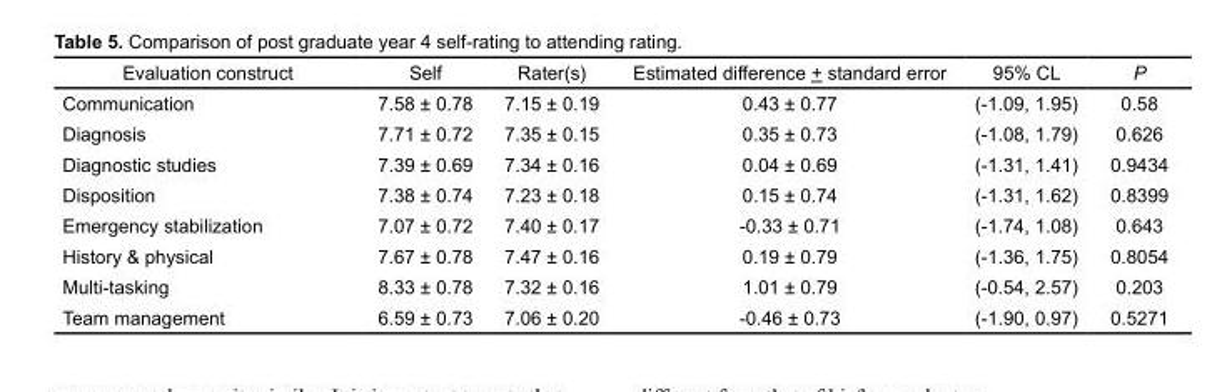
<table><thead><tr><td>Evaluation construct</td><td>Self</td><td>Rater(s)</td><td>Estimated difference + standard error</td><td>95% CL</td><td>P</td></tr></thead><tbody><tr><td>Communication</td><td>7.58 ± 0.78</td><td>7.15 ± 0.19</td><td>0.43 ± 0.77</td><td>(-1.09, 1.95)</td><td>0.58</td></tr><tr><td>Diagnosis</td><td>7.71 ± 0.72</td><td>7.35 ± 0.15</td><td>0.35 ± 0.73</td><td>(-1.08, 1.79)</td><td>0.626</td></tr><tr><td>Diagnostic studies</td><td>7.39 ± 0.69</td><td>7.34 ± 0.16</td><td>0.04 ± 0.69</td><td>(-1.31, 1.41)</td><td>0.9434</td></tr><tr><td>Disposition</td><td>7.38 ± 0.74</td><td>7.23 ± 0.18</td><td>0.15 ± 0.74</td><td>(-1.31, 1.62)</td><td>0.8399</td></tr><tr><td>Emergency stabilization</td><td>7.07 ± 0.72</td><td>7.40 ± 0.17</td><td>-0.33 ± 0.71</td><td>(-1.74, 1.08)</td><td>0.643</td></tr><tr><td>History &amp; physical</td><td>7.67 ± 0.78</td><td>7.47 ± 0.16</td><td>0.19 ± 0.79</td><td>(-1.36, 1.75)</td><td>0.8054</td></tr><tr><td>Multi-tasking</td><td>8.33 ± 0.78</td><td>7.32 ± 0.16</td><td>1.01 ± 0.79</td><td>(-0.54, 2.57)</td><td>0.203</td></tr><tr><td>Team management</td><td>6.59 ± 0.73</td><td>7.06 ± 0.20</td><td>-0.46 ± 0.73</td><td>(-1.90, 0.97)</td><td>0.5271</td></tr></tbody></table>